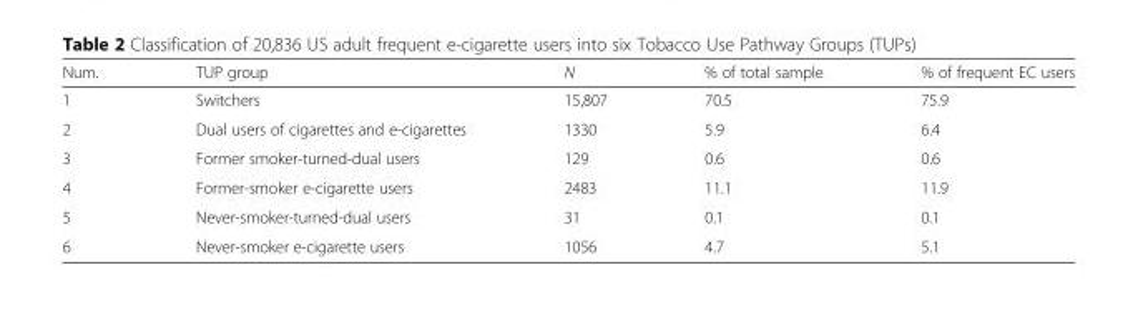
<table><thead><tr><td>Num.</td><td>TUP group</td><td>N</td><td>% of total sample</td><td>% of frequent EC users</td></tr></thead><tbody><tr><td>1</td><td>Switchers</td><td>15,807</td><td>70.5</td><td>75.9</td></tr><tr><td>2</td><td>Dual users of cigarettes and e-cigarettes</td><td>1330</td><td>5.9</td><td>6.4</td></tr><tr><td>3</td><td>Former smoker-turned-dual users</td><td>129</td><td>0.6</td><td>0.6</td></tr><tr><td>4</td><td>Former-smoker e-cigarette users</td><td>2483</td><td>11.1</td><td>11.9</td></tr><tr><td>5</td><td>Never-smoker-turned-dual users</td><td>31</td><td>0.1</td><td>0.1</td></tr><tr><td>6</td><td>Never-smoker e-cigarette users</td><td>1056</td><td>4.7</td><td>5.1</td></tr></tbody></table>